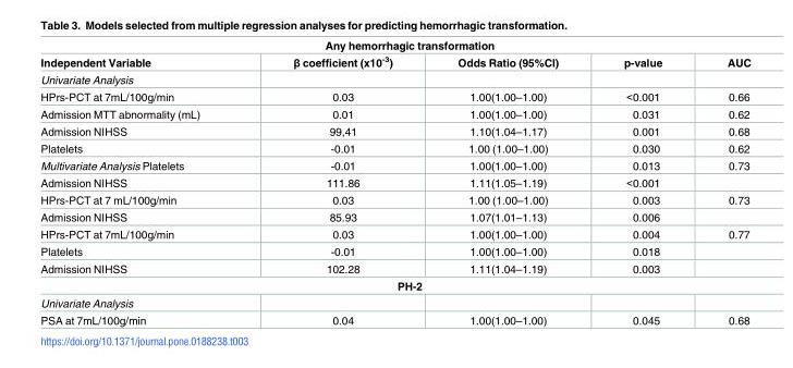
<table><thead><tr><td colspan="5">Any hemorrhagic transformation</td></tr><tr><td>Independent Variable</td><td>β coefficient (x10<sup>-3</sup>)</td><td>Odds Ratio (95%CI)</td><td>p-value</td><td>AUC</td></tr></thead><tbody><tr><td colspan="5">Univariate Analysis</td></tr><tr><td>HPrs-PCT at 7mL/100g/min</td><td>0.03</td><td>1.00(1.00–1.00)</td><td>&lt;0.001</td><td>0.66</td></tr><tr><td>Admission MTT abnormality (mL)</td><td>0.01</td><td>1.00(1.00–1.00)</td><td>0.031</td><td>0.62</td></tr><tr><td>Admission NIHSS</td><td>99,41</td><td>1.10(1.04–1.17)</td><td>0.001</td><td>0.68</td></tr><tr><td>Platelets</td><td>-0.01</td><td>1.00 (1.00–1.00)</td><td>0.030</td><td>0.62</td></tr><tr><td>Multivariate Analysis Platelets</td><td>-0.01</td><td>1.00(1.00–1.00)</td><td>0.013</td><td>0.73</td></tr><tr><td>Admission NIHSS</td><td>111.86</td><td>1.11(1.05–1.19)</td><td>&lt;0.001</td><td></td></tr><tr><td>HPrs-PCT at 7 mL/100g/min</td><td>0.03</td><td>1.00 (1.00–1.00)</td><td>0.003</td><td>0.73</td></tr><tr><td>Admission NIHSS</td><td>85.93</td><td>1.07(1.01–1.13)</td><td>0.006</td><td></td></tr><tr><td>HPrs-PCT at 7mL/100g/min</td><td>0.03</td><td>1.00(1.00–1.00)</td><td>0.004</td><td>0.77</td></tr><tr><td>Platelets</td><td>-0.01</td><td>1.00(1.00–1.00)</td><td>0.018</td><td></td></tr><tr><td>Admission NIHSS</td><td>102.28</td><td>1.11(1.04–1.19)</td><td>0.003</td><td></td></tr><tr><td colspan="5">PH-2</td></tr><tr><td colspan="5">Univariate Analysis</td></tr><tr><td>PSA at 7mL/100g/min</td><td>0.04</td><td>1.00(1.00–1.00)</td><td>0.045</td><td>0.68</td></tr></tbody></table>